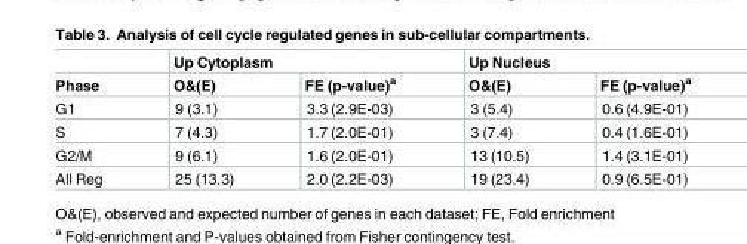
<table><thead><tr><td rowspan="2">Phase</td><td colspan="2">Up Cytoplasm</td><td colspan="2">Up Nucleus</td></tr><tr><td>O&amp;(E)</td><td>FE (p-value)<sup>a</sup></td><td>O&amp;(E)</td><td>FE (p-value)<sup>a</sup></td></tr></thead><tbody><tr><td>G1</td><td>9 (3.1)</td><td>3.3 (2.9E-03)</td><td>3 (5.4)</td><td>0.6 (4.9E-01)</td></tr><tr><td>S</td><td>7 (4.3)</td><td>1.7 (2.0E-01)</td><td>3 (7.4)</td><td>0.4 (1.6E-01)</td></tr><tr><td>G2/M</td><td>9 (6.1)</td><td>1.6 (2.0E-01)</td><td>13 (10.5)</td><td>1.4 (3.1E-01)</td></tr><tr><td>All Reg</td><td>25 (13.3)</td><td>2.0 (2.2E-03)</td><td>19 (23.4)</td><td>0.9 (6.5E-01)</td></tr></tbody></table>